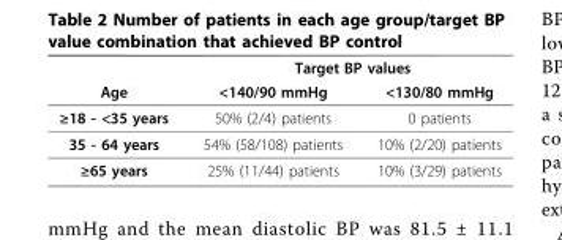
<table><thead><tr><td rowspan="2">Age</td><td colspan="2">Target BP values</td></tr><tr><td>&lt;140/90 mmHg</td><td>&lt;130/80 mmHg</td></tr></thead><tbody><tr><td>≥18 - &lt;35 years</td><td>50% (2/4) patients</td><td>0 patients</td></tr><tr><td>35 - 64 years</td><td>54% (58/108) patients</td><td>10% (2/20) patients</td></tr><tr><td>≥65 years</td><td>25% (11/44) patients</td><td>10% (3/29) patients</td></tr></tbody></table>